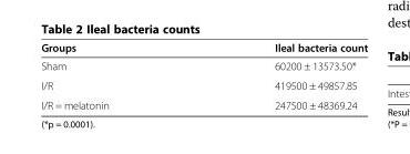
<table><thead><tr><td>Groups</td><td>Ileal bacteria count</td></tr></thead><tbody><tr><td>Sham</td><td>60200 ± 13573.50*</td></tr><tr><td>I/R</td><td>419500 ± 49857.85</td></tr><tr><td>I/R = melatonin</td><td>247500 ± 48369.24</td></tr></tbody></table>